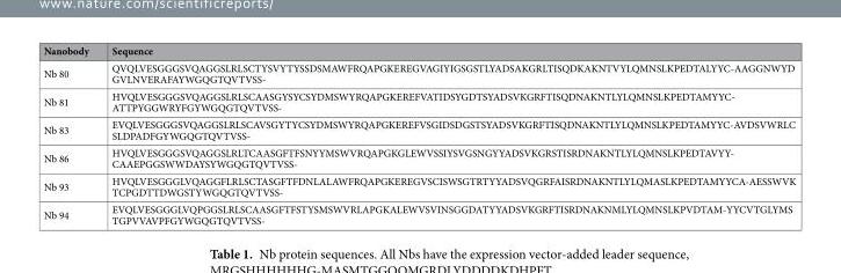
<table><thead><tr><td>Nanobody</td><td>Sequence</td></tr></thead><tbody><tr><td>Nb 80</td><td>QVQLVESGGGSVQAGGSLRLSCTYSVYTYSSDSMAWFRQAPGKEREGVAGIYIGSGSTLYADSAKGRLTISQDKAKNTVYLQMNSLKPEDTALYYC-AAGGNWYD GVLNVERAFAYWGQGTQVTVSS-</td></tr><tr><td>Nb 81</td><td>HVQLVESGGGSVQAGGSLRLSCAASGYSYCSYDMSWYRQAPGKEREFVATIDSYGDTSYADSVKGRFTISQDNAKNTLYLQMNSLKPEDTAMYYC- ATTPYGGWRYFGYWGQGTQVTVSS-</td></tr><tr><td>Nb 83</td><td>EVQLVESGGGSVQAGGSLRLSCAVSGYTYCSYDMSWYRQAPGKEREFVSGIDSDGSTSYADSVKGRFTISQDNAKNTLYLQMNSLKPEDTAMYYC-AVDSVWRLC SLDPADFGYWGQGTQVTVSS-</td></tr><tr><td>Nb 86</td><td>HVQLVESGGGSVQAGGSLRLTCAASGFTFSNYYMSWVRQAPGKGLEWVSSIYSVGSNGYYADSVKGRSTISRDNAKNTLYLQMNSLKPEDTAVYY- CAAEPGGSWWDAYSYWGQGTQVTVSS-</td></tr><tr><td>Nb 93</td><td>HVQLVESGGGLVQAGGFLRLSCTASGFTFDNLALAWFRQAPGKEREGVSCISWSGTRTYYADSVQGRFAISRDNAKNTLYLQMASLKPEDTAMYYCA-AESSWVK TCPGDTTDWGSTYWGQGTQVTVSS-</td></tr><tr><td>Nb 94</td><td>EVQLVESGGGLVQPGGSLRLSCAASGFTFSTYSMSWVRLAPGKALEWVSVINSGGDATYYADSVKGRFTISRDNAKNMLYLQMNSLKPVDTAM-YYCVTGLYMS TGPVVAVPFGYWGQGTQVTVSS-</td></tr></tbody></table>